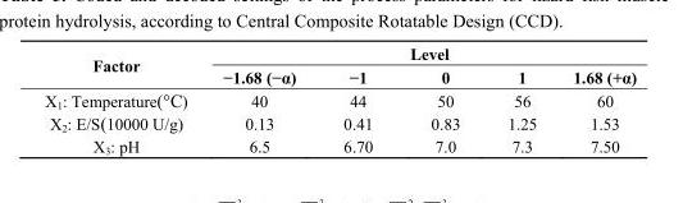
<table><thead><tr><td rowspan="2">Factor</td><td colspan="5">Level</td></tr><tr><td>−1.68 (−α)</td><td>−1</td><td>0</td><td>1</td><td>1.68 (+α)</td></tr></thead><tbody><tr><td>X<sub>1</sub>: Temperature(°C)</td><td>40</td><td>44</td><td>50</td><td>56</td><td>60</td></tr><tr><td>X<sub>2</sub>: E/S(10000 U/g)</td><td>0.13</td><td>0.41</td><td>0.83</td><td>1.25</td><td>1.53</td></tr><tr><td>X<sub>3</sub>: pH</td><td>6.5</td><td>6.70</td><td>7.0</td><td>7.3</td><td>7.50</td></tr></tbody></table>